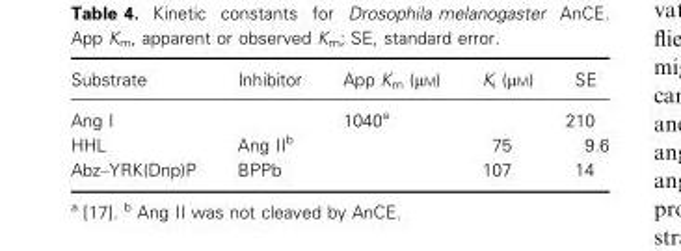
<table><thead><tr><td>Substrate</td><td>Inhibitor</td><td>App K<sub>m</sub> (μM)</td><td>K<sub>i</sub> (μM)</td><td>SE</td></tr></thead><tbody><tr><td>Ang I</td><td></td><td>1040<sup>a</sup></td><td></td><td>210</td></tr><tr><td>HHL</td><td>Ang II<sup>b</sup></td><td></td><td>75</td><td>9.6</td></tr><tr><td>Abz–YRK(Dnp)P</td><td>BPPb</td><td></td><td>107</td><td>14</td></tr></tbody></table>